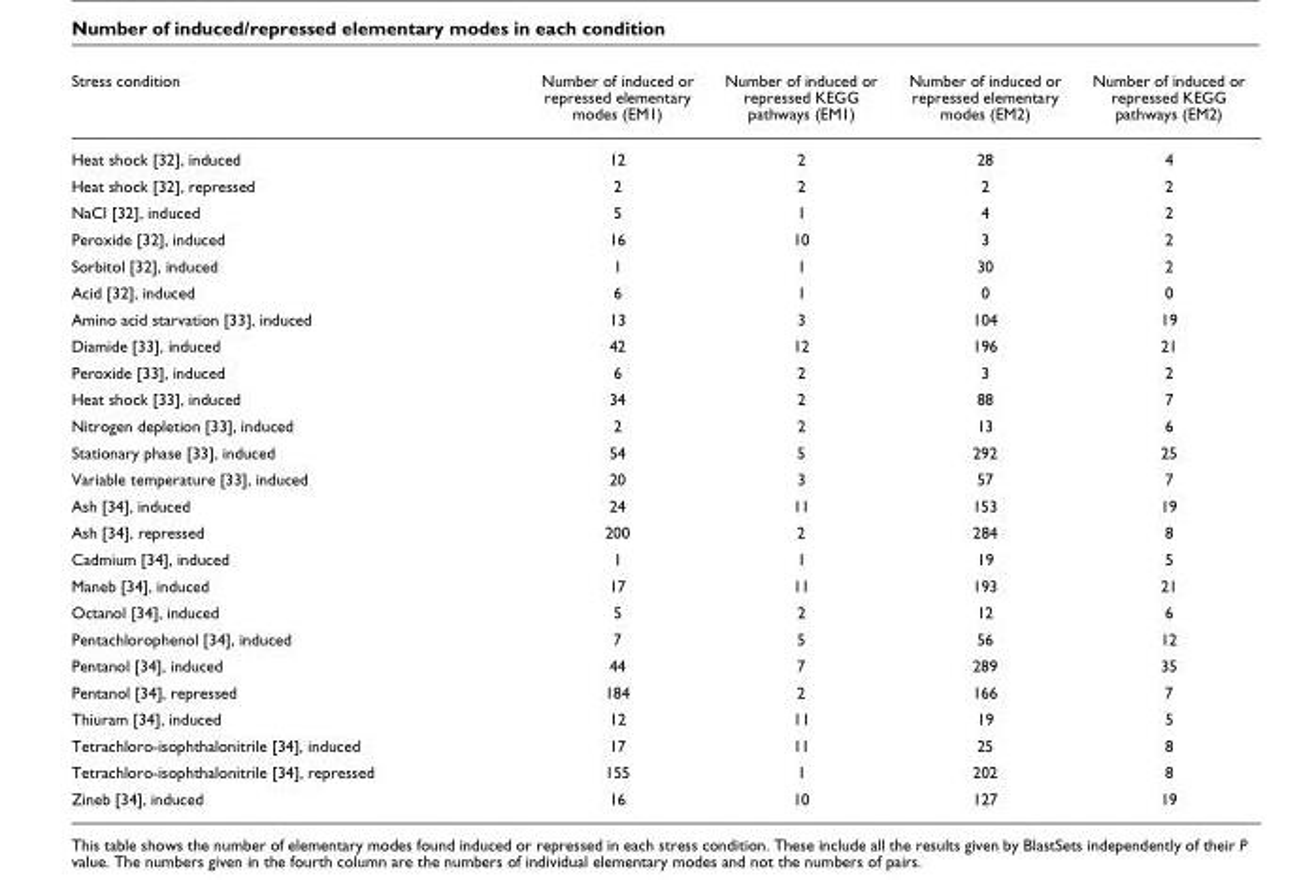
<table><thead><tr><td>Stress condition</td><td>Number of induced or repressed elementary modes (EM1)</td><td>Number of induced or repressed KEGG pathways (EM1)</td><td>Number of induced or repressed elementary modes (EM2)</td><td>Number of induced or repressed KEGG pathways (EM2)</td></tr></thead><tbody><tr><td>Heat shock [32], induced</td><td>12</td><td>2</td><td>28</td><td>4</td></tr><tr><td>Heat shock [32], repressed</td><td>2</td><td>2</td><td>2</td><td>2</td></tr><tr><td>NaCl [32], induced</td><td>5</td><td>1</td><td>4</td><td>2</td></tr><tr><td>Peroxide [32], induced</td><td>16</td><td>10</td><td>3</td><td>2</td></tr><tr><td>Sorbitol [32], induced</td><td>1</td><td>1</td><td>30</td><td>2</td></tr><tr><td>Acid [32], induced</td><td>6</td><td>1</td><td>0</td><td>0</td></tr><tr><td>Amino acid starvation [33], induced</td><td>13</td><td>3</td><td>104</td><td>19</td></tr><tr><td>Diamide [33], induced</td><td>42</td><td>12</td><td>196</td><td>21</td></tr><tr><td>Peroxide [33], induced</td><td>6</td><td>2</td><td>3</td><td>2</td></tr><tr><td>Heat shock [33], induced</td><td>34</td><td>2</td><td>88</td><td>7</td></tr><tr><td>Nitrogen depletion [33], induced</td><td>2</td><td>2</td><td>13</td><td>6</td></tr><tr><td>Stationary phase [33], induced</td><td>54</td><td>5</td><td>292</td><td>25</td></tr><tr><td>Variable temperature [33], induced</td><td>20</td><td>3</td><td>57</td><td>7</td></tr><tr><td>Ash [34], induced</td><td>24</td><td>11</td><td>153</td><td>19</td></tr><tr><td>Ash [34], repressed</td><td>200</td><td>2</td><td>284</td><td>8</td></tr><tr><td>Cadmium [34], induced</td><td>1</td><td>1</td><td>19</td><td>5</td></tr><tr><td>Maneb [34], induced</td><td>17</td><td>11</td><td>193</td><td>21</td></tr><tr><td>Octanol [34], induced</td><td>5</td><td>2</td><td>12</td><td>6</td></tr><tr><td>Pentachlorophenol [34], induced</td><td>7</td><td>5</td><td>56</td><td>12</td></tr><tr><td>Pentanol [34], induced</td><td>44</td><td>7</td><td>289</td><td>35</td></tr><tr><td>Pentanol [34], repressed</td><td>184</td><td>2</td><td>166</td><td>7</td></tr><tr><td>Thiuram [34], induced</td><td>12</td><td>11</td><td>19</td><td>5</td></tr><tr><td>Tetrachloro-isophthalonitrile [34], induced</td><td>17</td><td>11</td><td>25</td><td>8</td></tr><tr><td>Tetrachloro-isophthalonitrile [34], repressed</td><td>155</td><td>1</td><td>202</td><td>8</td></tr><tr><td>Zineb [34], induced</td><td>16</td><td>10</td><td>127</td><td>19</td></tr></tbody></table>